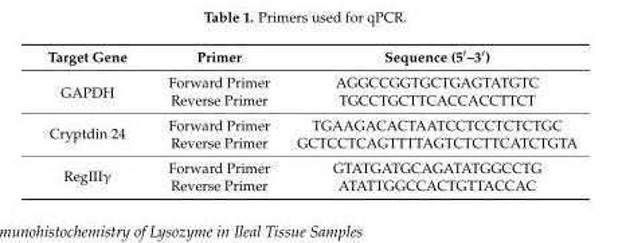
<table><thead><tr><td>Target Gene</td><td>Primer</td><td>Sequence (5′–3′)</td></tr></thead><tbody><tr><td rowspan="2">GAPDH</td><td>Forward Primer</td><td>AGGCCGGTGCTGAGTATGTC</td></tr><tr><td>Reverse Primer</td><td>TGCCTGCTTCACCACCTTCT</td></tr><tr><td rowspan="2">Cryptdin 24</td><td>Forward Primer</td><td>TGAAGACACTAATCCTCCTCTCTGC</td></tr><tr><td>Reverse Primer</td><td>GCTCCTCAGTTTTAGTCTCTTCATCTGTA</td></tr><tr><td rowspan="2">RegIIIγ</td><td>Forward Primer</td><td>GTATGATGCAGATATGGCCTG</td></tr><tr><td>Reverse Primer</td><td>ATATTGGCCACTGTTACCAC</td></tr></tbody></table>